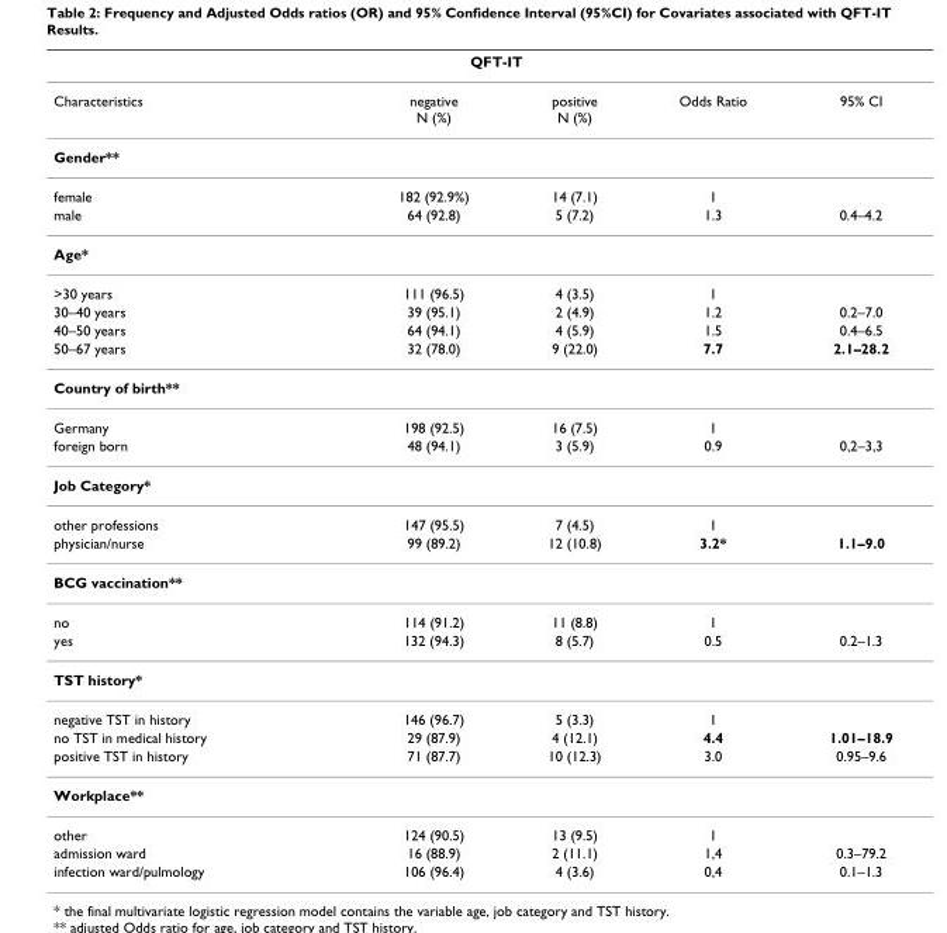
<table><thead><tr><td rowspan="2">Characteristics</td><td colspan="2">QFT-IT</td><td rowspan="2">Odds Ratio</td><td rowspan="2">95% CI</td></tr><tr><td>negative N (%)</td><td>positive N (%)</td></tr></thead><tbody><tr><td colspan="5">Gender**</td></tr><tr><td>female</td><td>182 (92.9%)</td><td>14 (7.1)</td><td>1</td><td></td></tr><tr><td>male</td><td>64 (92.8)</td><td>5 (7.2)</td><td>1.3</td><td>0.4–4.2</td></tr><tr><td colspan="5">Age*</td></tr><tr><td>&gt;30 years</td><td>111 (96.5)</td><td>4 (3.5)</td><td>1</td><td></td></tr><tr><td>30–40 years</td><td>39 (95.1)</td><td>2 (4.9)</td><td>1.2</td><td>0.2–7.0</td></tr><tr><td>40–50 years</td><td>64 (94.1)</td><td>4 (5.9)</td><td>1.5</td><td>0.4–6.5</td></tr><tr><td>50–67 years</td><td>32 (78.0)</td><td>9 (22.0)</td><td>7.7</td><td>2.1–28.2</td></tr><tr><td colspan="5">Country of birth**</td></tr><tr><td>Germany</td><td>198 (92.5)</td><td>16 (7.5)</td><td>1</td><td></td></tr><tr><td>foreign born</td><td>48 (94.1)</td><td>3 (5.9)</td><td>0.9</td><td>0,2–3,3</td></tr><tr><td colspan="5">Job Category*</td></tr><tr><td>other professions</td><td>147 (95.5)</td><td>7 (4.5)</td><td>1</td><td></td></tr><tr><td>physician/nurse</td><td>99 (89.2)</td><td>12 (10.8)</td><td>3.2*</td><td>1.1–9.0</td></tr><tr><td colspan="5">BCG vaccination**</td></tr><tr><td>no</td><td>114 (91.2)</td><td>11 (8.8)</td><td>1</td><td></td></tr><tr><td>yes</td><td>132 (94.3)</td><td>8 (5.7)</td><td>0.5</td><td>0.2–1.3</td></tr><tr><td colspan="5">TST history*</td></tr><tr><td>negative TST in history</td><td>146 (96.7)</td><td>5 (3.3)</td><td>1</td><td></td></tr><tr><td>no TST in medical history</td><td>29 (87.9)</td><td>4 (12.1)</td><td>4.4</td><td>1.01–18.9</td></tr><tr><td>positive TST in history</td><td>71 (87.7)</td><td>10 (12.3)</td><td>3.0</td><td>0.95–9.6</td></tr><tr><td colspan="5">Workplace**</td></tr><tr><td>other</td><td>124 (90.5)</td><td>13 (9.5)</td><td>1</td><td></td></tr><tr><td>admission ward</td><td>16 (88.9)</td><td>2 (11.1)</td><td>1,4</td><td>0.3–79.2</td></tr><tr><td>infection ward/pulmology</td><td>106 (96.4)</td><td>4 (3.6)</td><td>0,4</td><td>0.1–1.3</td></tr></tbody></table>